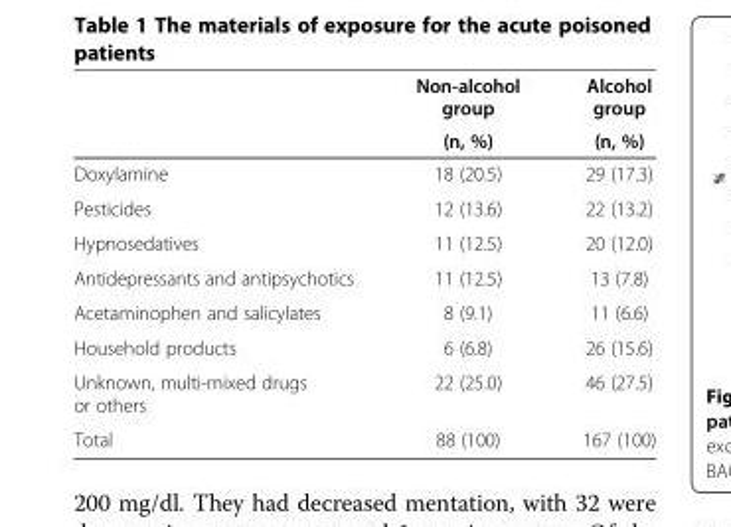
<table><thead><tr><td rowspan="2"></td><td rowspan="2">Non-alcohol group (n, %)</td><td rowspan="2">Alcohol group (n, %)</td></tr><tr></tr></thead><tbody><tr><td>Doxylamine</td><td>18 (20.5)</td><td>29 (17.3)</td></tr><tr><td>Pesticides</td><td>12 (13.6)</td><td>22 (13.2)</td></tr><tr><td>Hypnosedatives</td><td>11 (12.5)</td><td>20 (12.0)</td></tr><tr><td>Antidepressants and antipsychotics</td><td>11 (12.5)</td><td>13 (7.8)</td></tr><tr><td>Acetaminophen and salicylates</td><td>8 (9.1)</td><td>11 (6.6)</td></tr><tr><td>Household products</td><td>6 (6.8)</td><td>26 (15.6)</td></tr><tr><td>Unknown, multi-mixed drugs or others</td><td>22 (25.0)</td><td>46 (27.5)</td></tr><tr><td>Total</td><td>88 (100)</td><td>167 (100)</td></tr></tbody></table>